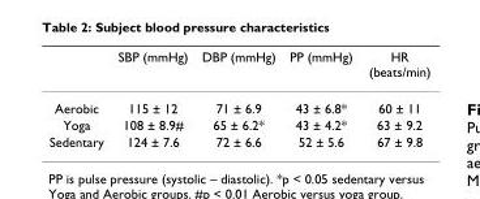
<table><thead><tr><td></td><td>SBP (mmHg)</td><td>DBP (mmHg)</td><td>PP (mmHg)</td><td>HR (beats/min)</td></tr></thead><tbody><tr><td>Aerobic</td><td>115 ± 12</td><td>71 ± 6.9</td><td>43 ± 6.8*</td><td>60 ± 11</td></tr><tr><td>Yoga</td><td>108 ± 8.9#</td><td>65 ± 6.2*</td><td>43 ± 4.2*</td><td>63 ± 9.2</td></tr><tr><td>Sedentary</td><td>124 ± 7.6</td><td>72 ± 6.6</td><td>52 ± 5.6</td><td>67 ± 9.8</td></tr></tbody></table>